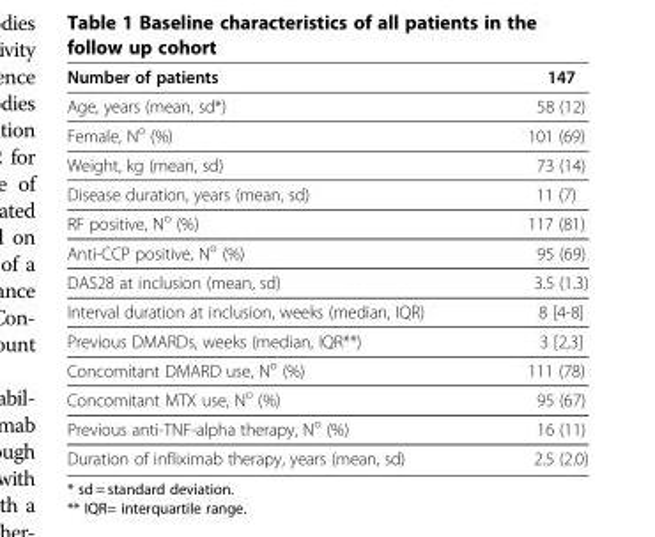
<table><thead><tr><td>Number of patients</td><td>147</td></tr></thead><tbody><tr><td>Age, years (mean, sd*)</td><td>58 (12)</td></tr><tr><td>Female, N<sup>o</sup> (%)</td><td>101 (69)</td></tr><tr><td>Weight, kg (mean, sd)</td><td>73 (14)</td></tr><tr><td>Disease duration, years (mean, sd)</td><td>11 (7)</td></tr><tr><td>RF positive, N<sup>o</sup> (%)</td><td>117 (81)</td></tr><tr><td>Anti-CCP positive, N<sup>o</sup> (%)</td><td>95 (69)</td></tr><tr><td>DAS28 at inclusion (mean, sd)</td><td>3.5 (1.3)</td></tr><tr><td>Interval duration at inclusion, weeks (median, IQR)</td><td>8 [4-8]</td></tr><tr><td>Previous DMARDs, weeks (median, IQR**)</td><td>3 [2,3]</td></tr><tr><td>Concomitant DMARD use, N<sup>o</sup> (%)</td><td>111 (78)</td></tr><tr><td>Concomitant MTX use, N<sup>o</sup> (%)</td><td>95 (67)</td></tr><tr><td>Previous anti-TNF-alpha therapy, N<sup>o</sup> (%)</td><td>16 (11)</td></tr><tr><td>Duration of infliximab therapy, years (mean, sd)</td><td>2.5 (2.0)</td></tr></tbody></table>